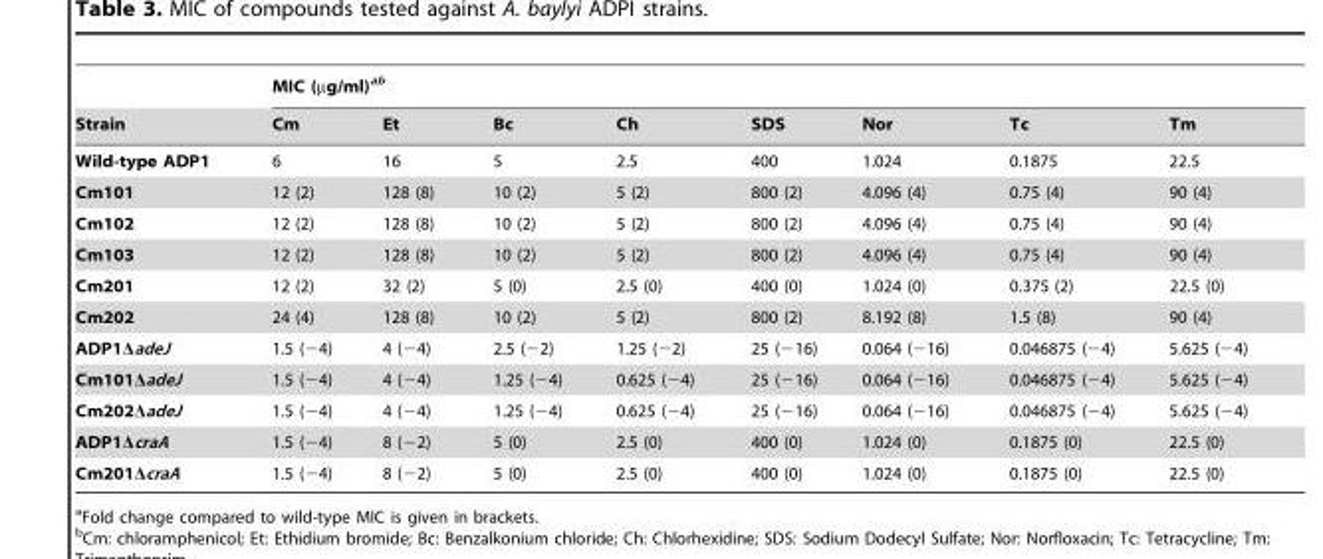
<table><thead><tr><td rowspan="2">Strain</td><td colspan="8">MIC (µg/ml)<sup>ab</sup></td></tr><tr><td>Cm</td><td>Et</td><td>Bc</td><td>Ch</td><td>SDS</td><td>Nor</td><td>Tc</td><td>Tm</td></tr></thead><tbody><tr><td>Wild-type ADP1</td><td>6</td><td>16</td><td>5</td><td>2.5</td><td>400</td><td>1.024</td><td>0.1875</td><td>22.5</td></tr><tr><td>Cm101</td><td>12 (2)</td><td>128 (8)</td><td>10 (2)</td><td>5 (2)</td><td>800 (2)</td><td>4.096 (4)</td><td>0.75 (4)</td><td>90 (4)</td></tr><tr><td>Cm102</td><td>12 (2)</td><td>128 (8)</td><td>10 (2)</td><td>5 (2)</td><td>800 (2)</td><td>4.096 (4)</td><td>0.75 (4)</td><td>90 (4)</td></tr><tr><td>Cm103</td><td>12 (2)</td><td>128 (8)</td><td>10 (2)</td><td>5 (2)</td><td>800 (2)</td><td>4.096 (4)</td><td>0.75 (4)</td><td>90 (4)</td></tr><tr><td>Cm201</td><td>12 (2)</td><td>32 (2)</td><td>5 (0)</td><td>2.5 (0)</td><td>400 (0)</td><td>1.024 (0)</td><td>0.375 (2)</td><td>22.5 (0)</td></tr><tr><td>Cm202</td><td>24 (4)</td><td>128 (8)</td><td>10 (2)</td><td>5 (2)</td><td>800 (2)</td><td>8.192 (8)</td><td>1.5 (8)</td><td>90 (4)</td></tr><tr><td>ADP1ΔadeJ</td><td>1.5 (−4)</td><td>4 (−4)</td><td>2.5 (−2)</td><td>1.25 (−2)</td><td>25 (−16)</td><td>0.064 (−16)</td><td>0.046875 (−4)</td><td>5.625 (−4)</td></tr><tr><td>Cm101ΔadeJ</td><td>1.5 (−4)</td><td>4 (−4)</td><td>1.25 (−4)</td><td>0.625 (−4)</td><td>25 (−16)</td><td>0.064 (−16)</td><td>0.046875 (−4)</td><td>5.625 (−4)</td></tr><tr><td>Cm202ΔadeJ</td><td>1.5 (−4)</td><td>4 (−4)</td><td>1.25 (−4)</td><td>0.625 (−4)</td><td>25 (−16)</td><td>0.064 (−16)</td><td>0.046875 (−4)</td><td>5.625 (−4)</td></tr><tr><td>ADP1ΔcraA</td><td>1.5 (−4)</td><td>8 (−2)</td><td>5 (0)</td><td>2.5 (0)</td><td>400 (0)</td><td>1.024 (0)</td><td>0.1875 (0)</td><td>22.5 (0)</td></tr><tr><td>Cm201ΔcraA</td><td>1.5 (−4)</td><td>8 (−2)</td><td>5 (0)</td><td>2.5 (0)</td><td>400 (0)</td><td>1.024 (0)</td><td>0.1875 (0)</td><td>22.5 (0)</td></tr></tbody></table>